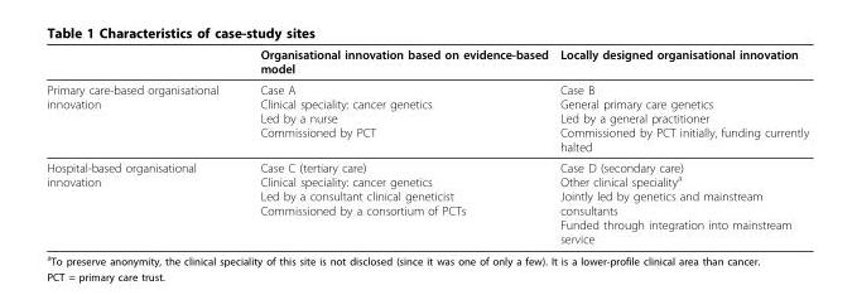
<table><thead><tr><td></td><td>Organisational innovation based on evidence-based model</td><td>Locally designed organisational innovation</td></tr></thead><tbody><tr><td>Primary care-based organisational innovation</td><td>Case A Clinical speciality: cancer genetics Led by a nurse Commissioned by PCT</td><td>Case B General primary care genetics Led by a general practitioner Commissioned by PCT initially, funding currently halted</td></tr><tr><td>Hospital-based organisational innovation</td><td>Case C (tertiary care) Clinical speciality: cancer genetics Led by a consultant clinical geneticist Commissioned by a consortium of PCTs</td><td>Case D (secondary care) Other clinical speciality<sup>a</sup> Jointly led by genetics and mainstream consultants Funded through integration into mainstream service</td></tr></tbody></table>